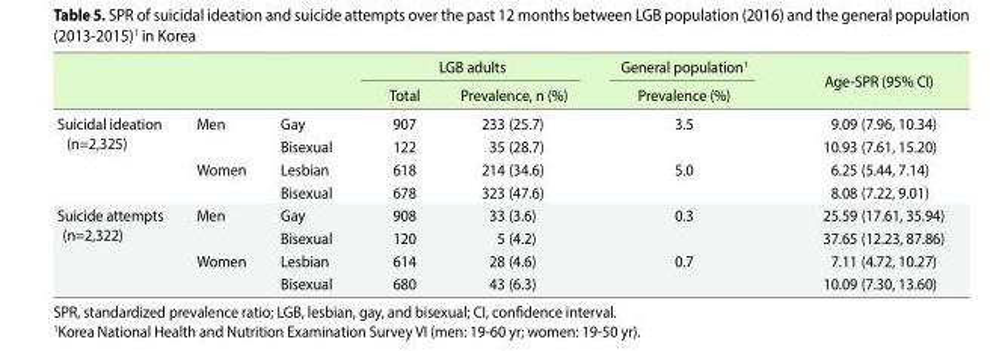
<table><thead><tr><td rowspan="2"></td><td rowspan="2"></td><td rowspan="2"></td><td colspan="2">LGB adults</td><td rowspan="2">General population<sup>1</sup> Prevalence (%)</td><td rowspan="2">Age-SPR (95% CI)</td></tr><tr><td>Total</td><td>Prevalence, n (%)</td></tr></thead><tbody><tr><td rowspan="4">Suicidal ideation (n=2,325)</td><td>Men</td><td>Gay</td><td>907</td><td>233 (25.7)</td><td>3.5</td><td>9.09 (7.96, 10.34)</td></tr><tr><td></td><td>Bisexual</td><td>122</td><td>35 (28.7)</td><td></td><td>10.93 (7.61, 15.20)</td></tr><tr><td>Women</td><td>Lesbian</td><td>618</td><td>214 (34.6)</td><td>5.0</td><td>6.25 (5.44, 7.14)</td></tr><tr><td></td><td>Bisexual</td><td>678</td><td>323 (47.6)</td><td></td><td>8.08 (7.22, 9.01)</td></tr><tr><td rowspan="4">Suicide attempts (n=2,322)</td><td>Men</td><td>Gay</td><td>908</td><td>33 (3.6)</td><td>0.3</td><td>25.59 (17.61, 35.94)</td></tr><tr><td></td><td>Bisexual</td><td>120</td><td>5 (4.2)</td><td></td><td>37.65 (12.23, 87.86)</td></tr><tr><td>Women</td><td>Lesbian</td><td>614</td><td>28 (4.6)</td><td>0.7</td><td>7.11 (4.72, 10.27)</td></tr><tr><td></td><td>Bisexual</td><td>680</td><td>43 (6.3)</td><td></td><td>10.09 (7.30, 13.60)</td></tr></tbody></table>